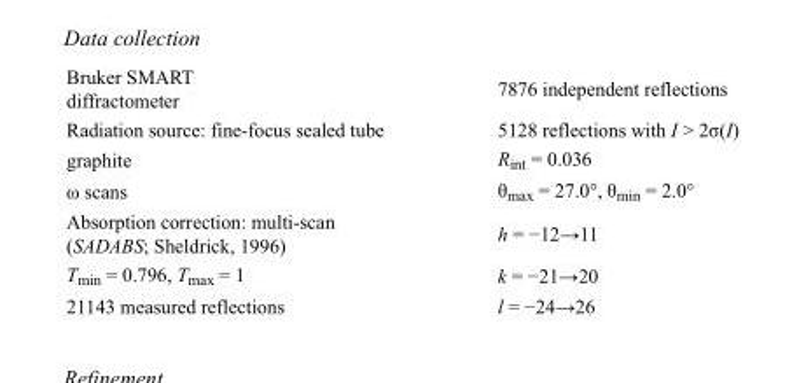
<table><tbody><tr><td>Bruker SMART diffractometer</td><td>7876 independent reflections</td></tr><tr><td>Radiation source: fine-focus sealed tube</td><td>5128 reflections with I &gt; 2σ(I)</td></tr><tr><td>graphite</td><td>R<sub>int</sub> = 0.036</td></tr><tr><td>ω scans</td><td>θ<sub>max</sub> = 27.0°, θ<sub>min</sub> = 2.0°</td></tr><tr><td>Absorption correction: multi-scan (SADABS; Sheldrick, 1996)</td><td>h = −12→11</td></tr><tr><td>T<sub>min</sub> = 0.796, T<sub>max</sub> = 1</td><td>k = −21→20</td></tr><tr><td>21143 measured reflections</td><td>l = −24→26</td></tr></tbody></table>